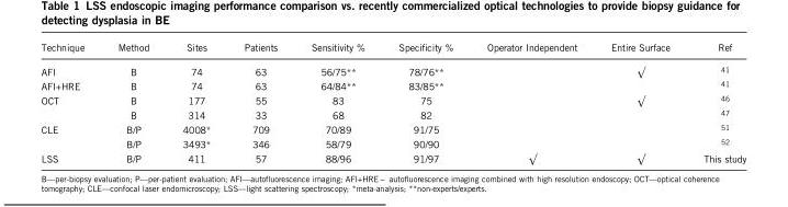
<table><thead><tr><td>Technique</td><td>Method</td><td>Sites</td><td>Patients</td><td>Sensitivity %</td><td>Specificity %</td><td>Operator Independent</td><td>Entire Surface</td><td>Ref</td></tr></thead><tbody><tr><td>AFI</td><td>B</td><td>74</td><td>63</td><td>56/75**</td><td>78/76**</td><td></td><td>√</td><td><sup>41</sup></td></tr><tr><td>AFI+HRE</td><td>B</td><td>74</td><td>63</td><td>64/84**</td><td>83/85**</td><td></td><td></td><td><sup>41</sup></td></tr><tr><td rowspan="2">OCT</td><td>B</td><td>177</td><td>55</td><td>83</td><td>75</td><td></td><td>√</td><td><sup>46</sup></td></tr><tr><td>B</td><td>314</td><td>33</td><td>68</td><td>82</td><td></td><td></td><td><sup>47</sup></td></tr><tr><td rowspan="2">CLE</td><td>B/P</td><td>4008*</td><td>709</td><td>70/89</td><td>91/75</td><td></td><td></td><td><sup>51</sup></td></tr><tr><td>B/P</td><td>3493*</td><td>346</td><td>58/79</td><td>90/90</td><td></td><td></td><td><sup>52</sup></td></tr><tr><td>LSS</td><td>B/P</td><td>411</td><td>57</td><td>88/96</td><td>91/97</td><td>√</td><td>√</td><td>This study</td></tr></tbody></table>